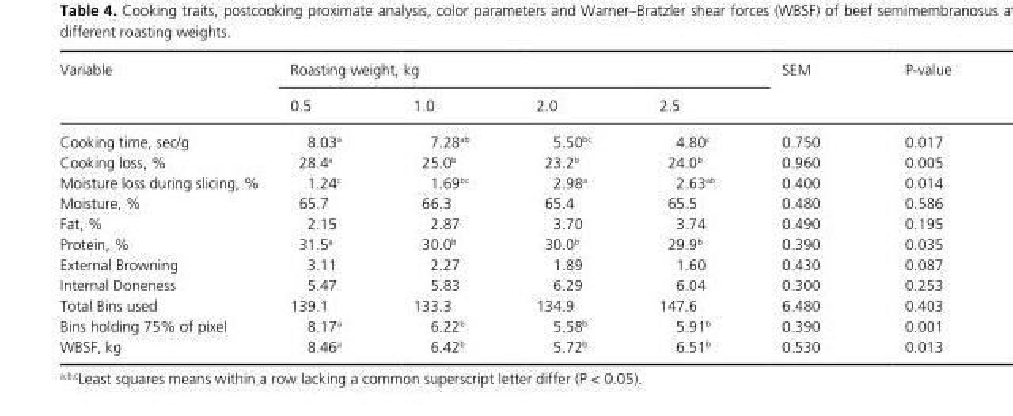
<table><thead><tr><td rowspan="2">Variable</td><td colspan="4">Roasting weight, kg</td><td rowspan="2">SEM</td><td rowspan="2">P- value</td></tr><tr><td>0.5</td><td>1.0</td><td>2.0</td><td>2.5</td></tr></thead><tbody><tr><td>Cooking time, sec/g</td><td>8.03<sup>a</sup></td><td>7.28<sup>ab</sup></td><td>5.50<sup>bc</sup></td><td>4.80<sup>c</sup></td><td>0.750</td><td>0.017</td></tr><tr><td>Cooking loss, %</td><td>28.4<sup>a</sup></td><td>25.0<sup>b</sup></td><td>23.2<sup>b</sup></td><td>24.0<sup>b</sup></td><td>0.960</td><td>0.005</td></tr><tr><td>Moisture loss during slicing, %</td><td>1.24<sup>c</sup></td><td>1.69<sup>bc</sup></td><td>2.98<sup>a</sup></td><td>2.63<sup>ab</sup></td><td>0.400</td><td>0.014</td></tr><tr><td>Moisture, %</td><td>65.7</td><td>66.3</td><td>65.4</td><td>65.5</td><td>0.480</td><td>0.586</td></tr><tr><td>Fat, %</td><td>2.15</td><td>2.87</td><td>3.70</td><td>3.74</td><td>0.490</td><td>0.195</td></tr><tr><td>Protein, %</td><td>31.5<sup>a</sup></td><td>30.0<sup>b</sup></td><td>30.0<sup>b</sup></td><td>29.9<sup>b</sup></td><td>0.390</td><td>0.035</td></tr><tr><td>External Browning</td><td>3.11</td><td>2.27</td><td>1.89</td><td>1.60</td><td>0.430</td><td>0.087</td></tr><tr><td>Internal Doneness</td><td>5.47</td><td>5.83</td><td>6.29</td><td>6.04</td><td>0.300</td><td>0.253</td></tr><tr><td>Total Bins used</td><td>139.1</td><td>133.3</td><td>134.9</td><td>147.6</td><td>6.480</td><td>0.403</td></tr><tr><td>Bins holding 75% of pixel</td><td>8.17<sup>a</sup></td><td>6.22<sup>b</sup></td><td>5.58<sup>b</sup></td><td>5.91<sup>b</sup></td><td>0.390</td><td>0.001</td></tr><tr><td>WBSF, kg</td><td>8.46<sup>a</sup></td><td>6.42<sup>b</sup></td><td>5.72<sup>b</sup></td><td>6.51<sup>b</sup></td><td>0.530</td><td>0.013</td></tr></tbody></table>